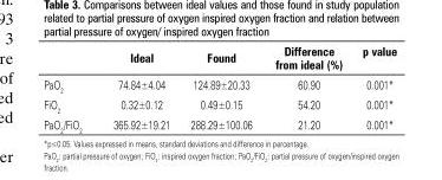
<table><thead><tr><td></td><td>Ideal</td><td>Found</td><td>Difference from ideal (%)</td><td>p value</td></tr></thead><tbody><tr><td>PaO<sub>2</sub></td><td>74.84±4.04</td><td>124.89±20.33</td><td>60.90</td><td>0.001*</td></tr><tr><td>FiO<sub>2</sub></td><td>0.32±0.12</td><td>0.49±0.15</td><td>54.20</td><td>0.001*</td></tr><tr><td>PaO<sub>2</sub>/FiO<sub>2</sub></td><td>365.92±19.21</td><td>288.29±100.06</td><td>21.20</td><td>0.001*</td></tr></tbody></table>